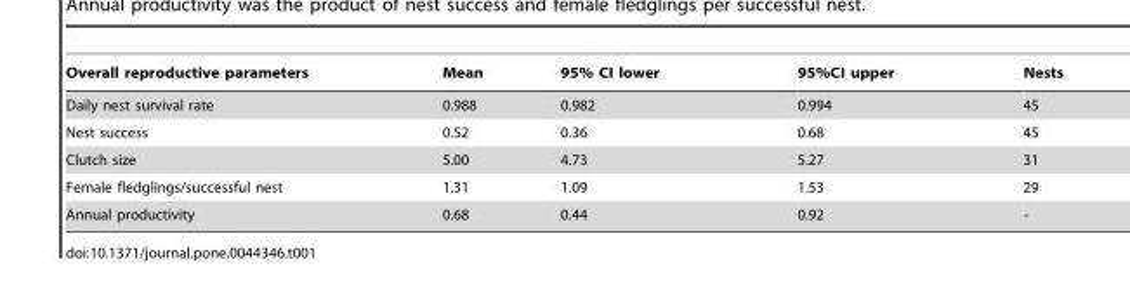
<table><thead><tr><td>Overall reproductive parameters</td><td>Mean</td><td>95% CI lower</td><td>95%CI upper</td><td>Nests</td></tr></thead><tbody><tr><td>Daily nest survival rate</td><td>0.988</td><td>0.982</td><td>0.994</td><td>45</td></tr><tr><td>Nest success</td><td>0.52</td><td>0.36</td><td>0.68</td><td>45</td></tr><tr><td>Clutch size</td><td>5.00</td><td>4.73</td><td>5.27</td><td>31</td></tr><tr><td>Female fledglings/successful nest</td><td>1.31</td><td>1.09</td><td>1.53</td><td>29</td></tr><tr><td>Annual productivity</td><td>0.68</td><td>0.44</td><td>0.92</td><td>-</td></tr></tbody></table>